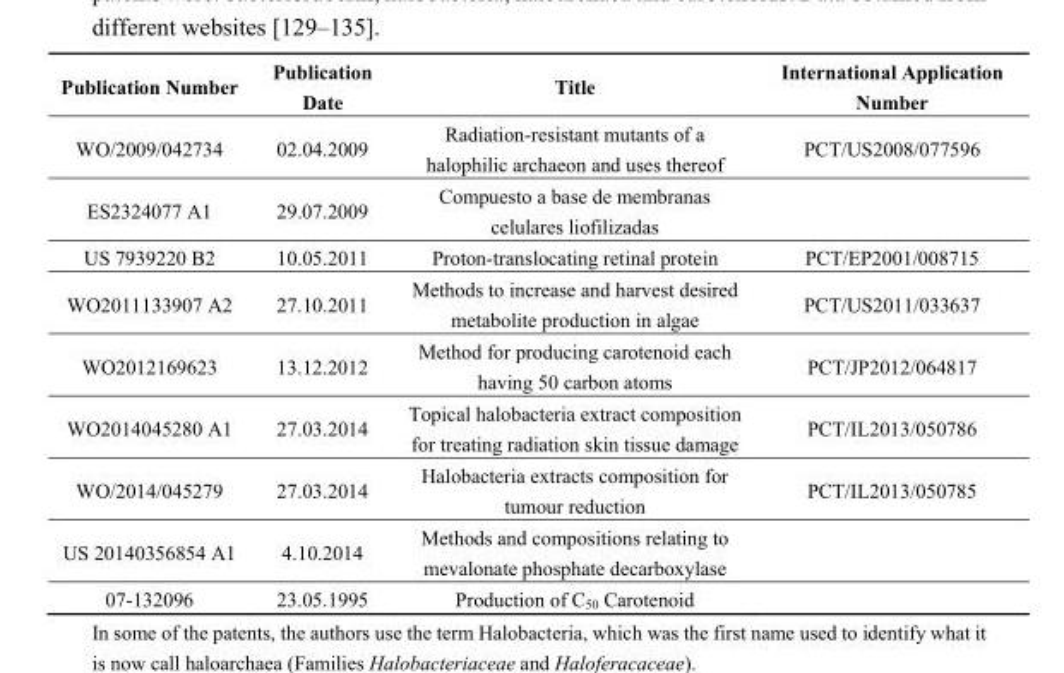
<table><thead><tr><td>Publication Number</td><td>Publication Date</td><td>Title</td><td>International Application Number</td></tr></thead><tbody><tr><td>WO/2009/042734</td><td>02.04.2009</td><td>Radiation-resistant mutants of a halophilic archaeon and uses thereof</td><td>PCT/US2008/077596</td></tr><tr><td>ES2324077 A1</td><td>29.07.2009</td><td>Compuesto a base de membranas celulares liofilizadas</td><td></td></tr><tr><td>US 7939220 B2</td><td>10.05.2011</td><td>Proton-translocating retinal protein</td><td>PCT/EP2001/008715</td></tr><tr><td>WO2011133907 A2</td><td>27.10.2011</td><td>Methods to increase and harvest desired metabolite production in algae</td><td>PCT/US2011/033637</td></tr><tr><td>WO2012169623</td><td>13.12.2012</td><td>Method for producing carotenoid each having 50 carbon atoms</td><td>PCT/JP2012/064817</td></tr><tr><td>WO2014045280 A1</td><td>27.03.2014</td><td>Topical halobacteria extract composition for treating radiation skin tissue damage</td><td>PCT/IL2013/050786</td></tr><tr><td>WO/2014/045279</td><td>27.03.2014</td><td>Halobacteria extracts composition for tumour reduction</td><td>PCT/IL2013/050785</td></tr><tr><td>US 20140356854 A1</td><td>4.10.2014</td><td>Methods and compositions relating to mevalonate phosphate decarboxylase</td><td></td></tr><tr><td>07-132096</td><td>23.05.1995</td><td>Production of C<sub>50</sub> Carotenoid</td><td></td></tr></tbody></table>